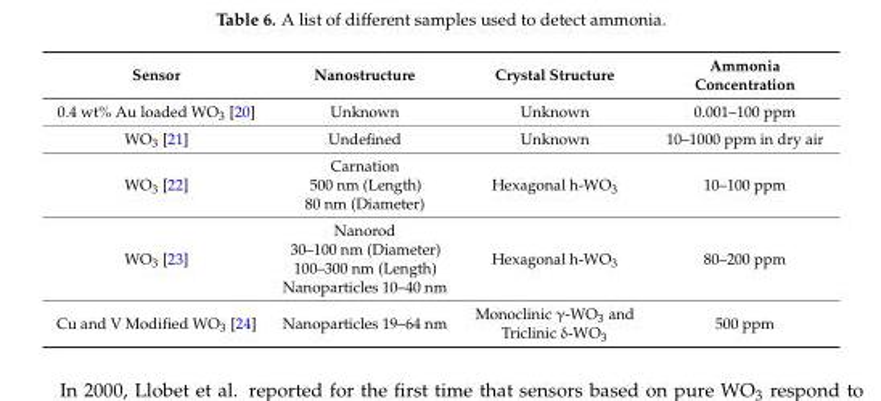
<table><thead><tr><td>Sensor</td><td>Nanostructure</td><td>Crystal Structure</td><td>Ammonia Concentration</td></tr></thead><tbody><tr><td>0.4 wt% Au loaded WO<sub>3</sub> [20]</td><td>Unknown</td><td>Unknown</td><td>0.001–100 ppm</td></tr><tr><td>WO<sub>3</sub> [21]</td><td>Undefined</td><td>Unknown</td><td>10–1000 ppm in dry air</td></tr><tr><td>WO<sub>3</sub> [22]</td><td>Carnation 500 nm (Length) 80 nm (Diameter)</td><td>Hexagonal h-WO<sub>3</sub></td><td>10–100 ppm</td></tr><tr><td>WO<sub>3</sub> [23]</td><td>Nanorod 30–100 nm (Diameter) 100–300 nm (Length) Nanoparticles 10–40 nm</td><td>Hexagonal h-WO<sub>3</sub></td><td>80–200 ppm</td></tr><tr><td>Cu and V Modified WO<sub>3</sub> [24]</td><td>Nanoparticles 19–64 nm</td><td>Monoclinic γ-WO<sub>3</sub> and Triclinic δ-WO<sub>3</sub></td><td>500 ppm</td></tr></tbody></table>